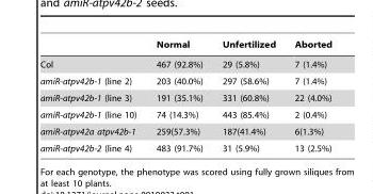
<table><thead><tr><td></td><td>Normal</td><td>Unfertilized</td><td>Aborted</td></tr></thead><tbody><tr><td>Col</td><td>467 (92.8%)</td><td>29 (5.8%)</td><td>7 (1.4%)</td></tr><tr><td>amiR-atpv42b-1 (line 2)</td><td>203 (40.0%)</td><td>297 (58.6%)</td><td>7 (1.4%)</td></tr><tr><td>amiR-atpv42b-1 (line 3)</td><td>191 (35.1%)</td><td>331 (60.8%)</td><td>22 (4.0%)</td></tr><tr><td>amiR-atpv42b-1 (line 10)</td><td>74 (14.3%)</td><td>443 (85.4%)</td><td>2 (0.4%)</td></tr><tr><td>amiR-atpv42a atpv42b-1</td><td>259(57.3%)</td><td>187(41.4%)</td><td>6(1.3%)</td></tr><tr><td>amiR-atpv42b-2 (line 4)</td><td>483 (91.7%)</td><td>31 (5.9%)</td><td>13 (2.5%)</td></tr></tbody></table>